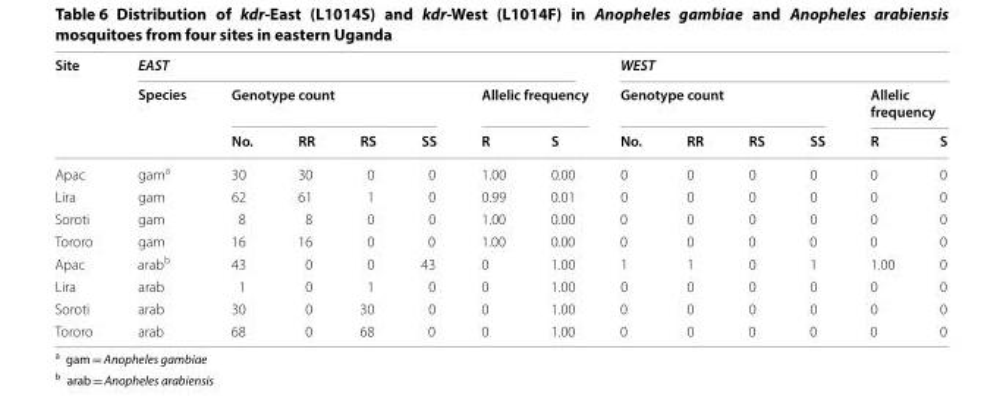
<table><thead><tr><td rowspan="3">Site</td><td colspan="7">EAST</td><td colspan="6">WEST</td></tr><tr><td rowspan="2">Species</td><td colspan="4">Genotype count</td><td colspan="2">Allelic frequency</td><td colspan="4">Genotype count</td><td colspan="2">Allelic frequency</td></tr><tr><td>No.</td><td>RR</td><td>RS</td><td>SS</td><td>R</td><td>S</td><td>No.</td><td>RR</td><td>RS</td><td>SS</td><td>R</td><td>S</td></tr></thead><tbody><tr><td>Apac</td><td>gam<sup>a</sup></td><td>30</td><td>30</td><td>0</td><td>0</td><td>1.00</td><td>0.00</td><td>0</td><td>0</td><td>0</td><td>0</td><td>0</td><td>0</td></tr><tr><td>Lira</td><td>gam</td><td>62</td><td>61</td><td>1</td><td>0</td><td>0.99</td><td>0.01</td><td>0</td><td>0</td><td>0</td><td>0</td><td>0</td><td>0</td></tr><tr><td>Soroti</td><td>gam</td><td>8</td><td>8</td><td>0</td><td>0</td><td>1.00</td><td>0.00</td><td>0</td><td>0</td><td>0</td><td>0</td><td>0</td><td>0</td></tr><tr><td>Tororo</td><td>gam</td><td>16</td><td>16</td><td>0</td><td>0</td><td>1.00</td><td>0.00</td><td>0</td><td>0</td><td>0</td><td>0</td><td>0</td><td>0</td></tr><tr><td>Apac</td><td>arab<sup>b</sup></td><td>43</td><td>0</td><td>0</td><td>43</td><td>0</td><td>1.00</td><td>1</td><td>1</td><td>0</td><td>1</td><td>1.00</td><td>0</td></tr><tr><td>Lira</td><td>arab</td><td>1</td><td>0</td><td>1</td><td>0</td><td>0</td><td>1.00</td><td>0</td><td>0</td><td>0</td><td>0</td><td>0</td><td>0</td></tr><tr><td>Soroti</td><td>arab</td><td>30</td><td>0</td><td>30</td><td>0</td><td>0</td><td>1.00</td><td>0</td><td>0</td><td>0</td><td>0</td><td>0</td><td>0</td></tr><tr><td>Tororo</td><td>arab</td><td>68</td><td>0</td><td>68</td><td>0</td><td>0</td><td>1.00</td><td>0</td><td>0</td><td>0</td><td>0</td><td>0</td><td>0</td></tr></tbody></table>